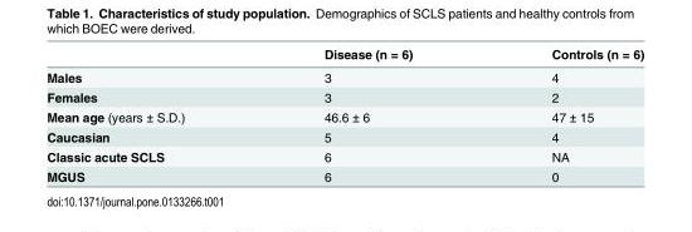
<table><thead><tr><td></td><td>Disease (n = 6)</td><td>Controls (n = 6)</td></tr></thead><tbody><tr><td>Males</td><td>3</td><td>4</td></tr><tr><td>Females</td><td>3</td><td>2</td></tr><tr><td>Mean age (years ± S.D.)</td><td>46.6 ± 6</td><td>47 ± 15</td></tr><tr><td>Caucasian</td><td>5</td><td>4</td></tr><tr><td>Classic acute SCLS</td><td>6</td><td>NA</td></tr><tr><td>MGUS</td><td>6</td><td>0</td></tr></tbody></table>